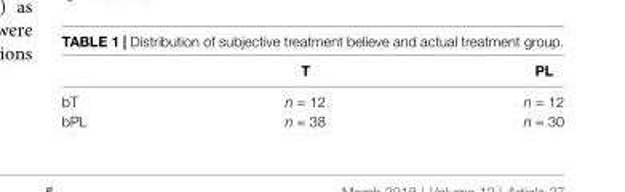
<table><thead><tr><td></td><td>T</td><td>PL</td></tr></thead><tbody><tr><td>bT</td><td>n = 12</td><td>n = 12</td></tr><tr><td>bPL</td><td>n = 38</td><td>n = 30</td></tr></tbody></table>